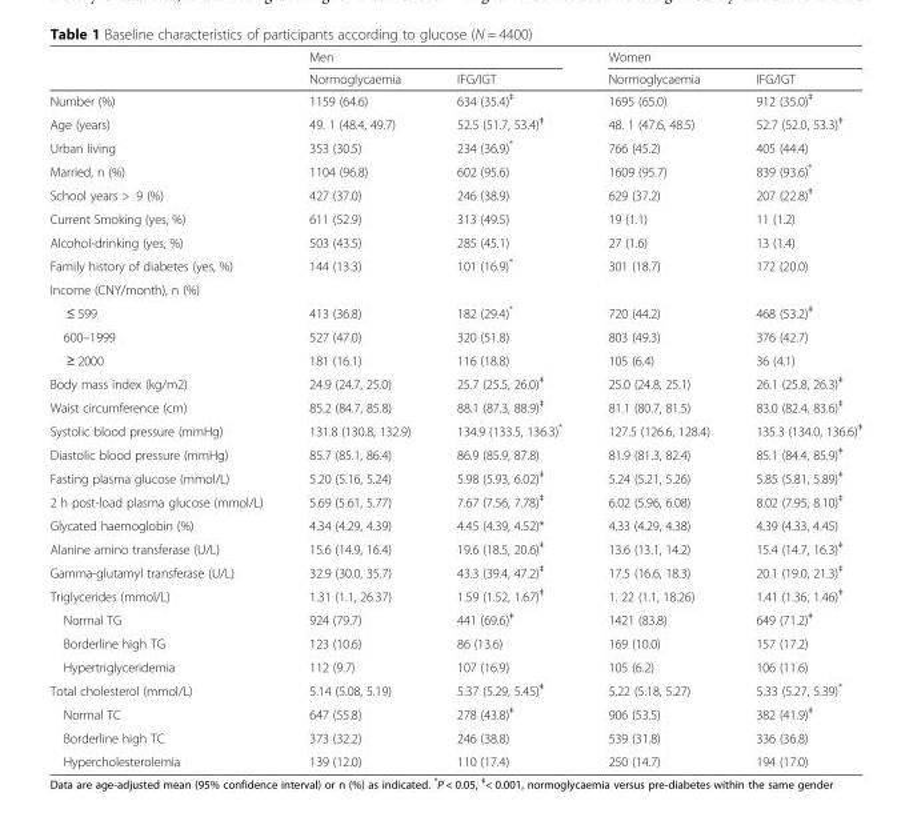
<table><thead><tr><td rowspan="2"></td><td colspan="2">Men</td><td colspan="2">Women</td></tr><tr><td>Normoglycaemia</td><td>IFG/IGT</td><td>Normoglycaemia</td><td>IFG/IGT</td></tr></thead><tbody><tr><td>Number (%)</td><td>1159 (64.6)</td><td>634 (35.4)<sup>ǂ</sup></td><td>1695 (65.0)</td><td>912 (35.0)<sup>ǂ</sup></td></tr><tr><td>Age (years)</td><td>49. 1 (48.4, 49.7)</td><td>52.5 (51.7, 53.4)<sup>ǂ</sup></td><td>48. 1 (47.6, 48.5)</td><td>52.7 (52.0, 53.3)<sup>ǂ</sup></td></tr><tr><td>Urban living</td><td>353 (30.5)</td><td>234 (36.9)*</td><td>766 (45.2)</td><td>405 (44.4)</td></tr><tr><td>Married, n (%)</td><td>1104 (96.8)</td><td>602 (95.6)</td><td>1609 (95.7)</td><td>839 (93.6)*</td></tr><tr><td>School years &gt; 9 (%)</td><td>427 (37.0)</td><td>246 (38.9)</td><td>629 (37.2)</td><td>207 (22.8)<sup>ǂ</sup></td></tr><tr><td>Current Smoking (yes, %)</td><td>611 (52.9)</td><td>313 (49.5)</td><td>19 (1.1)</td><td>11 (1.2)</td></tr><tr><td>Alcohol-drinking (yes, %)</td><td>503 (43.5)</td><td>285 (45.1)</td><td>27 (1.6)</td><td>13 (1.4)</td></tr><tr><td>Family history of diabetes (yes, %)</td><td>144 (13.3)</td><td>101 (16.9)*</td><td>301 (18.7)</td><td>172 (20.0)</td></tr><tr><td colspan="5">Income (CNY/month), n (%)</td></tr><tr><td>≤ 599</td><td>413 (36.8)</td><td>182 (29.4)*</td><td>720 (44.2)</td><td>468 (53.2)<sup>ǂ</sup></td></tr><tr><td>600–1999</td><td>527 (47.0)</td><td>320 (51.8)</td><td>803 (49.3)</td><td>376 (42.7)</td></tr><tr><td>≥ 2000</td><td>181 (16.1)</td><td>116 (18.8)</td><td>105 (6.4)</td><td>36 (4.1)</td></tr><tr><td>Body mass index (kg/m2)</td><td>24.9 (24.7, 25.0)</td><td>25.7 (25.5, 26.0)<sup>ǂ</sup></td><td>25.0 (24.8, 25.1)</td><td>26.1 (25.8, 26.3)<sup>ǂ</sup></td></tr><tr><td>Waist circumference (cm)</td><td>85.2 (84.7, 85.8)</td><td>88.1 (87.3, 88.9)<sup>ǂ</sup></td><td>81.1 (80.7, 81.5)</td><td>83.0 (82.4, 83.6)<sup>ǂ</sup></td></tr><tr><td>Systolic blood pressure (mmHg)</td><td>131.8 (130.8, 132.9)</td><td>134.9 (133.5, 136.3)*</td><td>127.5 (126.6, 128.4)</td><td>135.3 (134.0, 136.6)<sup>ǂ</sup></td></tr><tr><td>Diastolic blood pressure (mmHg)</td><td>85.7 (85.1, 86.4)</td><td>86.9 (85.9, 87.8)</td><td>81.9 (81.3, 82.4)</td><td>85.1 (84.4, 85.9)<sup>ǂ</sup></td></tr><tr><td>Fasting plasma glucose (mmol/L)</td><td>5.20 (5.16, 5.24)</td><td>5.98 (5.93, 6.02)<sup>ǂ</sup></td><td>5.24 (5.21, 5.26)</td><td>5.85 (5.81, 5.89)<sup>ǂ</sup></td></tr><tr><td>2 h post-load plasma glucose (mmol/L)</td><td>5.69 (5.61, 5.77)</td><td>7.67 (7.56, 7.78)<sup>ǂ</sup></td><td>6.02 (5.96, 6.08)</td><td>8.02 (7.95, 8.10)<sup>ǂ</sup></td></tr><tr><td>Glycated haemoglobin (%)</td><td>4.34 (4.29, 4.39)</td><td>4.45 (4.39, 4.52)*</td><td>4.33 (4.29, 4.38)</td><td>4.39 (4.33, 4.45)</td></tr><tr><td>Alanine amino transferase (U/L)</td><td>15.6 (14.9, 16.4)</td><td>19.6 (18.5, 20.6)<sup>ǂ</sup></td><td>13.6 (13.1, 14.2)</td><td>15.4 (14.7, 16.3)<sup>ǂ</sup></td></tr><tr><td>Gamma-glutamyl transferase (U/L)</td><td>32.9 (30.0, 35.7)</td><td>43.3 (39.4, 47.2)<sup>ǂ</sup></td><td>17.5 (16.6, 18.3)</td><td>20.1 (19.0, 21.3)<sup>ǂ</sup></td></tr><tr><td>Triglycerides (mmol/L)</td><td>1.31 (1.1, 26.37)</td><td>1.59 (1.52, 1.67)<sup>ǂ</sup></td><td>1. 22 (1.1, 18.26)</td><td>1.41 (1.36, 1.46)<sup>ǂ</sup></td></tr><tr><td>Normal TG</td><td>924 (79.7)</td><td>441 (69.6)<sup>ǂ</sup></td><td>1421 (83.8)</td><td>649 (71.2)<sup>ǂ</sup></td></tr><tr><td>Borderline high TG</td><td>123 (10.6)</td><td>86 (13.6)</td><td>169 (10.0)</td><td>157 (17.2)</td></tr><tr><td>Hypertriglyceridemia</td><td>112 (9.7)</td><td>107 (16.9)</td><td>105 (6.2)</td><td>106 (11.6)</td></tr><tr><td>Total cholesterol (mmol/L)</td><td>5.14 (5.08, 5.19)</td><td>5.37 (5.29, 5.45)<sup>ǂ</sup></td><td>5.22 (5.18, 5.27)</td><td>5.33 (5.27, 5.39)*</td></tr><tr><td>Normal TC</td><td>647 (55.8)</td><td>278 (43.8)<sup>ǂ</sup></td><td>906 (53.5)</td><td>382 (41.9)<sup>ǂ</sup></td></tr><tr><td>Borderline high TC</td><td>373 (32.2)</td><td>246 (38.8)</td><td>539 (31.8)</td><td>336 (36.8)</td></tr><tr><td>Hypercholesterolemia</td><td>139 (12.0)</td><td>110 (17.4)</td><td>250 (14.7)</td><td>194 (17.0)</td></tr></tbody></table>